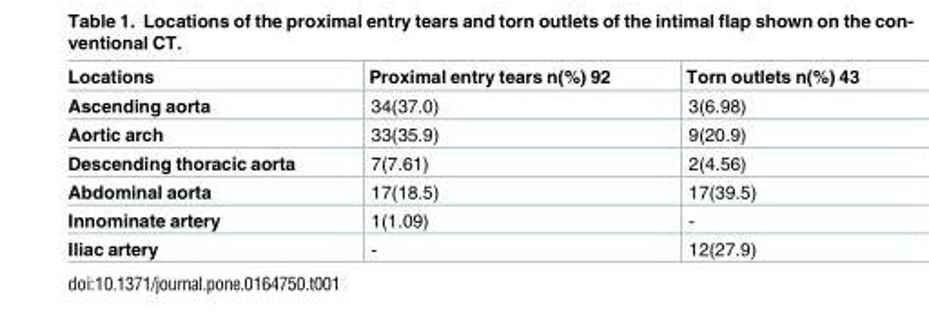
<table><thead><tr><td>Locations</td><td>Proximal entry tears n(%) 92</td><td>Torn outlets n(%) 43</td></tr></thead><tbody><tr><td>Ascending aorta</td><td>34(37.0)</td><td>3(6.98)</td></tr><tr><td>Aortic arch</td><td>33(35.9)</td><td>9(20.9)</td></tr><tr><td>Descending thoracic aorta</td><td>7(7.61)</td><td>2(4.56)</td></tr><tr><td>Abdominal aorta</td><td>17(18.5)</td><td>17(39.5)</td></tr><tr><td>Innominate artery</td><td>1(1.09)</td><td>-</td></tr><tr><td>Iliac artery</td><td>-</td><td>12(27.9)</td></tr></tbody></table>